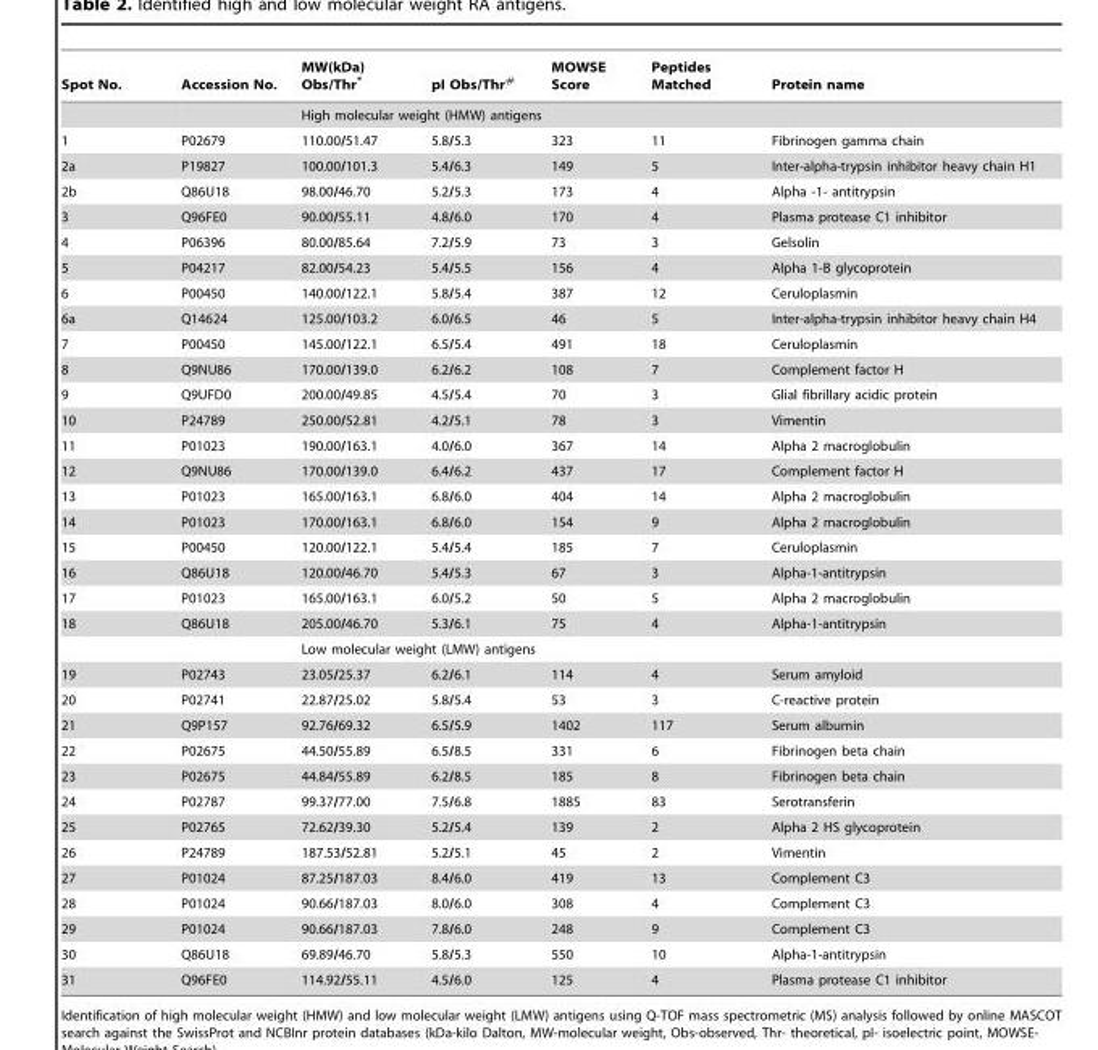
<table><thead><tr><td>Spot No.</td><td>Accession No.</td><td>MW(kDa) Obs/Thr*</td><td>pI Obs/Thr<sup>#</sup></td><td>MOWSE Score</td><td>Peptides Matched</td><td>Protein name</td></tr></thead><tbody><tr><td></td><td></td><td colspan="4">High molecular weight (HMW) antigens</td><td></td></tr><tr><td>1</td><td>P02679</td><td>110.00/51.47</td><td>5.8/5.3</td><td>323</td><td>11</td><td>Fibrinogen gamma chain</td></tr><tr><td>2a</td><td>P19827</td><td>100.00/101.3</td><td>5.4/6.3</td><td>149</td><td>5</td><td>Inter-alpha-trypsin inhibitor heavy chain H1</td></tr><tr><td>2b</td><td>Q86U18</td><td>98.00/46.70</td><td>5.2/5.3</td><td>173</td><td>4</td><td>Alpha -1- antitrypsin</td></tr><tr><td>3</td><td>Q96FE0</td><td>90.00/55.11</td><td>4.8/6.0</td><td>170</td><td>4</td><td>Plasma protease C1 inhibitor</td></tr><tr><td>4</td><td>P06396</td><td>80.00/85.64</td><td>7.2/5.9</td><td>73</td><td>3</td><td>Gelsolin</td></tr><tr><td>5</td><td>P04217</td><td>82.00/54.23</td><td>5.4/5.5</td><td>156</td><td>4</td><td>Alpha 1-B glycoprotein</td></tr><tr><td>6</td><td>P00450</td><td>140.00/122.1</td><td>5.8/5.4</td><td>387</td><td>12</td><td>Ceruloplasmin</td></tr><tr><td>6a</td><td>Q14624</td><td>125.00/103.2</td><td>6.0/6.5</td><td>46</td><td>5</td><td>Inter-alpha-trypsin inhibitor heavy chain H4</td></tr><tr><td>7</td><td>P00450</td><td>145.00/122.1</td><td>6.5/5.4</td><td>491</td><td>18</td><td>Ceruloplasmin</td></tr><tr><td>8</td><td>Q9NU86</td><td>170.00/139.0</td><td>6.2/6.2</td><td>108</td><td>7</td><td>Complement factor H</td></tr><tr><td>9</td><td>Q9UFD0</td><td>200.00/49.85</td><td>4.5/5.4</td><td>70</td><td>3</td><td>Glial fibrillary acidic protein</td></tr><tr><td>10</td><td>P24789</td><td>250.00/52.81</td><td>4.2/5.1</td><td>78</td><td>3</td><td>Vimentin</td></tr><tr><td>11</td><td>P01023</td><td>190.00/163.1</td><td>4.0/6.0</td><td>367</td><td>14</td><td>Alpha 2 macroglobulin</td></tr><tr><td>12</td><td>Q9NU86</td><td>170.00/139.0</td><td>6.4/6.2</td><td>437</td><td>17</td><td>Complement factor H</td></tr><tr><td>13</td><td>P01023</td><td>165.00/163.1</td><td>6.8/6.0</td><td>404</td><td>14</td><td>Alpha 2 macroglobulin</td></tr><tr><td>14</td><td>P01023</td><td>170.00/163.1</td><td>6.8/6.0</td><td>154</td><td>9</td><td>Alpha 2 macroglobulin</td></tr><tr><td>15</td><td>P00450</td><td>120.00/122.1</td><td>5.4/5.4</td><td>185</td><td>7</td><td>Ceruloplasmin</td></tr><tr><td>16</td><td>Q86U18</td><td>120.00/46.70</td><td>5.4/5.3</td><td>67</td><td>3</td><td>Alpha-1-antitrypsin</td></tr><tr><td>17</td><td>P01023</td><td>165.00/163.1</td><td>6.0/5.2</td><td>50</td><td>5</td><td>Alpha 2 macroglobulin</td></tr><tr><td rowspan="2">18</td><td>Q86U18</td><td>205.00/46.70</td><td>5.3/6.1</td><td>75</td><td>4</td><td>Alpha-1-antitrypsin</td></tr><tr><td></td><td colspan="4">Low molecular weight (LMW) antigens</td><td></td></tr><tr><td>19</td><td>P02743</td><td>23.05/25.37</td><td>6.2/6.1</td><td>114</td><td>4</td><td>Serum amyloid</td></tr><tr><td>20</td><td>P02741</td><td>22.87/25.02</td><td>5.8/5.4</td><td>53</td><td>3</td><td>C-reactive protein</td></tr><tr><td>21</td><td>Q9P157</td><td>92.76/69.32</td><td>6.5/5.9</td><td>1402</td><td>117</td><td>Serum albumin</td></tr><tr><td>22</td><td>P02675</td><td>44.50/55.89</td><td>6.5/8.5</td><td>331</td><td>6</td><td>Fibrinogen beta chain</td></tr><tr><td>23</td><td>P02675</td><td>44.84/55.89</td><td>6.2/8.5</td><td>185</td><td>8</td><td>Fibrinogen beta chain</td></tr><tr><td>24</td><td>P02787</td><td>99.37/77.00</td><td>7.5/6.8</td><td>1885</td><td>83</td><td>Serotransferin</td></tr><tr><td>25</td><td>P02765</td><td>72.62/39.30</td><td>5.2/5.4</td><td>139</td><td>2</td><td>Alpha 2 HS glycoprotein</td></tr><tr><td>26</td><td>P24789</td><td>187.53/52.81</td><td>5.2/5.1</td><td>45</td><td>2</td><td>Vimentin</td></tr><tr><td>27</td><td>P01024</td><td>87.25/187.03</td><td>8.4/6.0</td><td>419</td><td>13</td><td>Complement C3</td></tr><tr><td>28</td><td>P01024</td><td>90.66/187.03</td><td>8.0/6.0</td><td>308</td><td>4</td><td>Complement C3</td></tr><tr><td>29</td><td>P01024</td><td>90.66/187.03</td><td>7.8/6.0</td><td>248</td><td>9</td><td>Complement C3</td></tr><tr><td>30</td><td>Q86U18</td><td>69.89/46.70</td><td>5.8/5.3</td><td>550</td><td>10</td><td>Alpha-1-antitrypsin</td></tr><tr><td>31</td><td>Q96FE0</td><td>114.92/55.11</td><td>4.5/6.0</td><td>125</td><td>4</td><td>Plasma protease C1 inhibitor</td></tr></tbody></table>